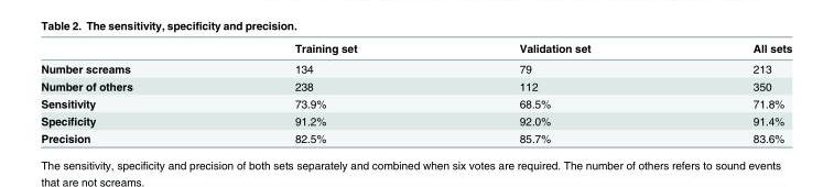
<table><thead><tr><td></td><td>Training set</td><td>Validation set</td><td>All sets</td></tr></thead><tbody><tr><td>Number screams</td><td>134</td><td>79</td><td>213</td></tr><tr><td>Number of others</td><td>238</td><td>112</td><td>350</td></tr><tr><td>Sensitivity</td><td>73.9%</td><td>68.5%</td><td>71.8%</td></tr><tr><td>Specificity</td><td>91.2%</td><td>92.0%</td><td>91.4%</td></tr><tr><td>Precision</td><td>82.5%</td><td>85.7%</td><td>83.6%</td></tr></tbody></table>